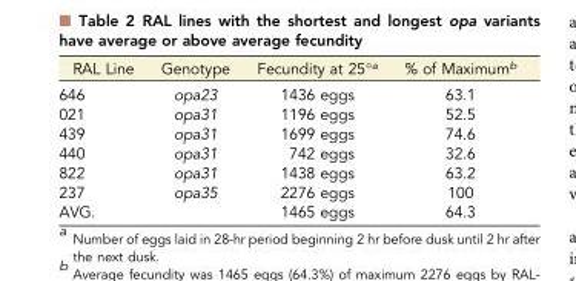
<table><thead><tr><td>RAL Line</td><td>Genotype</td><td>Fecundity at 25°<sup>a</sup></td><td>% of Maximum<sup>b</sup></td></tr></thead><tbody><tr><td>646</td><td>opa23</td><td>1436 eggs</td><td>63.1</td></tr><tr><td>021</td><td>opa31</td><td>1196 eggs</td><td>52.5</td></tr><tr><td>439</td><td>opa31</td><td>1699 eggs</td><td>74.6</td></tr><tr><td>440</td><td>opa31</td><td>742 eggs</td><td>32.6</td></tr><tr><td>822</td><td>opa31</td><td>1438 eggs</td><td>63.2</td></tr><tr><td>237</td><td>opa35</td><td>2276 eggs</td><td>100</td></tr><tr><td>AVG.</td><td></td><td>1465 eggs</td><td>64.3</td></tr></tbody></table>